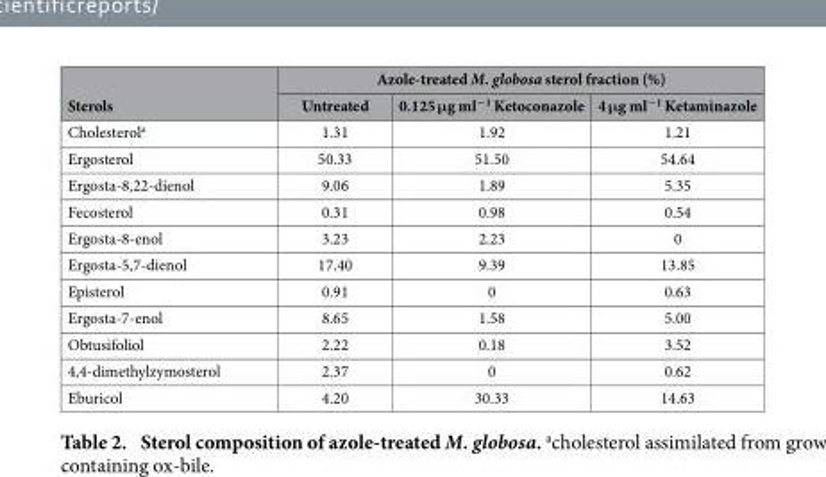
<table><thead><tr><td rowspan="2">Sterols</td><td colspan="3">Azole-treated M. globosa sterol fraction (%)</td></tr><tr><td>Untreated</td><td>0.125 μg ml<sup>−1</sup> Ketoconazole</td><td>4 μg ml<sup>−1</sup> Ketaminazole</td></tr></thead><tbody><tr><td>Cholesterol<sup>a</sup></td><td>1.31</td><td>1.92</td><td>1.21</td></tr><tr><td>Ergosterol</td><td>50.33</td><td>51.50</td><td>54.64</td></tr><tr><td>Ergosta-8,22-dienol</td><td>9.06</td><td>1.89</td><td>5.35</td></tr><tr><td>Fecosterol</td><td>0.31</td><td>0.98</td><td>0.54</td></tr><tr><td>Ergosta-8-enol</td><td>3.23</td><td>2.23</td><td>0</td></tr><tr><td>Ergosta-5,7-dienol</td><td>17.40</td><td>9.39</td><td>13.85</td></tr><tr><td>Episterol</td><td>0.91</td><td>0</td><td>0.63</td></tr><tr><td>Ergosta-7-enol</td><td>8.65</td><td>1.58</td><td>5.00</td></tr><tr><td>Obtusifoliol</td><td>2.22</td><td>0.18</td><td>3.52</td></tr><tr><td>4,4-dimethylzymosterol</td><td>2.37</td><td>0</td><td>0.62</td></tr><tr><td>Eburicol</td><td>4.20</td><td>30.33</td><td>14.63</td></tr></tbody></table>